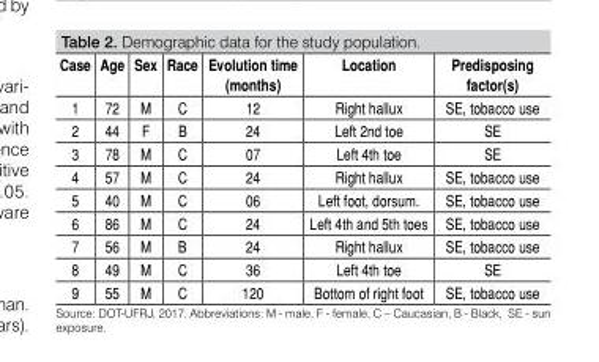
<table><thead><tr><td>Case</td><td>Age</td><td>Sex</td><td>Race</td><td>Evolution time (months)</td><td>Location</td><td>Predisposing factor(s)</td></tr></thead><tbody><tr><td>1</td><td>72</td><td>M</td><td>C</td><td>12</td><td>Right hallux</td><td>SE, tobacco use</td></tr><tr><td>2</td><td>44</td><td>F</td><td>B</td><td>24</td><td>Left 2nd toe</td><td>SE</td></tr><tr><td>3</td><td>78</td><td>M</td><td>C</td><td>07</td><td>Left 4th toe</td><td>SE</td></tr><tr><td>4</td><td>57</td><td>M</td><td>C</td><td>24</td><td>Right hallux</td><td>SE, tobacco use</td></tr><tr><td>5</td><td>40</td><td>M</td><td>C</td><td>06</td><td>Left foot, dorsum.</td><td>SE, tobacco use</td></tr><tr><td>6</td><td>86</td><td>M</td><td>C</td><td>24</td><td>Left 4th and 5th toes</td><td>SE, tobacco use</td></tr><tr><td>7</td><td>56</td><td>M</td><td>B</td><td>24</td><td>Right hallux</td><td>SE, tobacco use</td></tr><tr><td>8</td><td>49</td><td>M</td><td>C</td><td>36</td><td>Left 4th toe</td><td>SE</td></tr><tr><td>9</td><td>55</td><td>M</td><td>C</td><td>120</td><td>Bottom of right foot</td><td>SE, tobacco use</td></tr></tbody></table>